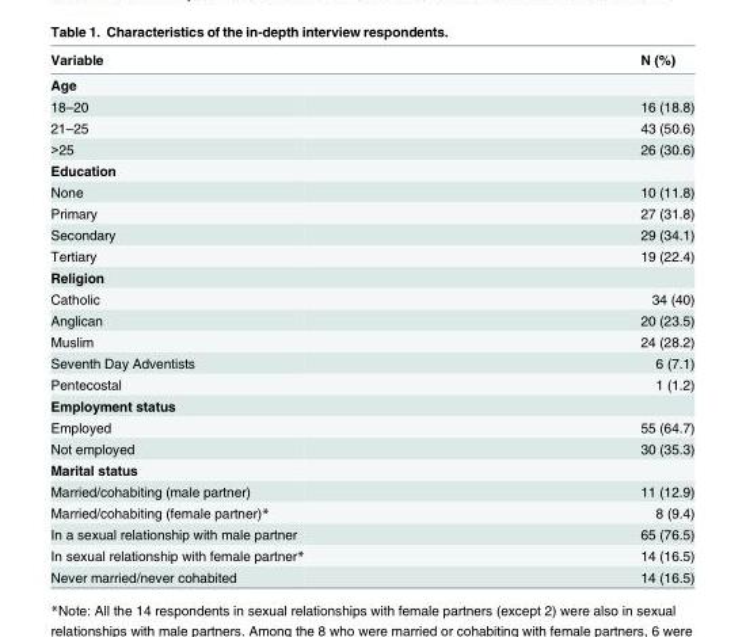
<table><thead><tr><td>Variable</td><td>N (%)</td></tr></thead><tbody><tr><td colspan="2">Age</td></tr><tr><td>18–20</td><td>16 (18.8)</td></tr><tr><td>21–25</td><td>43 (50.6)</td></tr><tr><td>&gt;25</td><td>26 (30.6)</td></tr><tr><td colspan="2">Education</td></tr><tr><td>None</td><td>10 (11.8)</td></tr><tr><td>Primary</td><td>27 (31.8)</td></tr><tr><td>Secondary</td><td>29 (34.1)</td></tr><tr><td>Tertiary</td><td>19 (22.4)</td></tr><tr><td colspan="2">Religion</td></tr><tr><td>Catholic</td><td>34 (40)</td></tr><tr><td>Anglican</td><td>20 (23.5)</td></tr><tr><td>Muslim</td><td>24 (28.2)</td></tr><tr><td>Seventh Day Adventists</td><td>6 (7.1)</td></tr><tr><td>Pentecostal</td><td>1 (1.2)</td></tr><tr><td colspan="2">Employment status</td></tr><tr><td>Employed</td><td>55 (64.7)</td></tr><tr><td>Not employed</td><td>30 (35.3)</td></tr><tr><td colspan="2">Marital status</td></tr><tr><td>Married/cohabiting (male partner)</td><td>11 (12.9)</td></tr><tr><td>Married/cohabiting (female partner)*</td><td>8 (9.4)</td></tr><tr><td>In a sexual relationship with male partner</td><td>65 (76.5)</td></tr><tr><td>In sexual relationship with female partner*</td><td>14 (16.5)</td></tr><tr><td>Never married/never cohabited</td><td>14 (16.5)</td></tr></tbody></table>